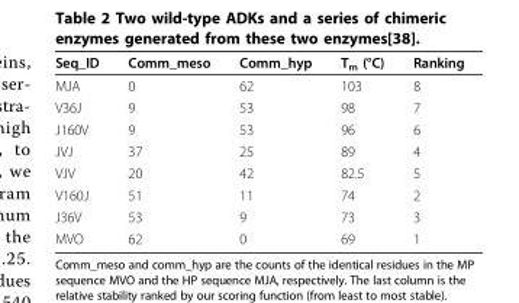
<table><thead><tr><td>Seq_ID</td><td>Comm_meso</td><td>Comm_hyp</td><td>T<sub>m</sub> (°C)</td><td>Ranking</td></tr></thead><tbody><tr><td>MJA</td><td>0</td><td>62</td><td>103</td><td>8</td></tr><tr><td>V36J</td><td>9</td><td>53</td><td>98</td><td>7</td></tr><tr><td>J160V</td><td>9</td><td>53</td><td>96</td><td>6</td></tr><tr><td>JVJ</td><td>37</td><td>25</td><td>89</td><td>4</td></tr><tr><td>VJV</td><td>20</td><td>42</td><td>82.5</td><td>5</td></tr><tr><td>V160J</td><td>51</td><td>11</td><td>74</td><td>2</td></tr><tr><td>J36V</td><td>53</td><td>9</td><td>73</td><td>3</td></tr><tr><td>MVO</td><td>62</td><td>0</td><td>69</td><td>1</td></tr></tbody></table>